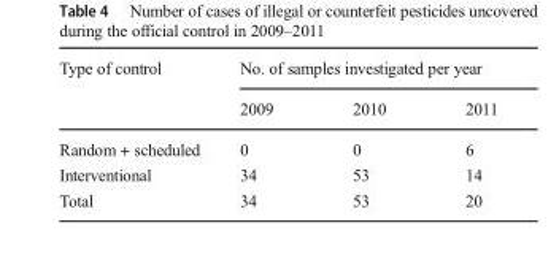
<table><thead><tr><td rowspan="2">Type of control</td><td colspan="3">No. of samples investigated per year</td></tr><tr><td>2009</td><td>2010</td><td>2011</td></tr></thead><tbody><tr><td>Random + scheduled</td><td>0</td><td>0</td><td>6</td></tr><tr><td>Interventional</td><td>34</td><td>53</td><td>14</td></tr><tr><td>Total</td><td>34</td><td>53</td><td>20</td></tr></tbody></table>